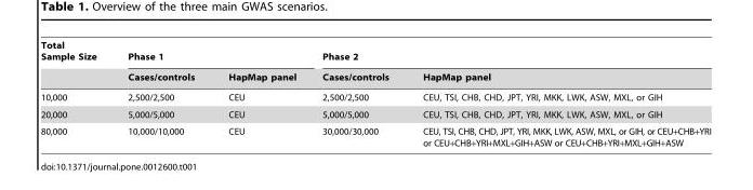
<table><thead><tr><td rowspan="2">Total Sample Size</td><td colspan="2">Phase 1</td><td colspan="2">Phase 2</td></tr><tr><td>Cases/controls</td><td>HapMap panel</td><td>Cases/controls</td><td>HapMap panel</td></tr></thead><tbody><tr><td>10,000</td><td>2,500/2,500</td><td>CEU</td><td>2,500/2,500</td><td>CEU, TSI, CHB, CHD, JPT, YRI, MKK, LWK, ASW, MXL, or GIH</td></tr><tr><td>20,000</td><td>5,000/5,000</td><td>CEU</td><td>5,000/5,000</td><td>CEU, TSI, CHB, CHD, JPT, YRI, MKK, LWK, ASW, MXL, or GIH</td></tr><tr><td>80,000</td><td>10,000/10,000</td><td>CEU</td><td>30,000/30,000</td><td>CEU, TSI, CHB, CHD, JPT, YRI, MKK, LWK, ASW, MXL, or GIH, or CEU+CHB+YRI or CEU+CHB+YRI+MXL+GIH+ASW or CEU+CHB+YRI+MXL+GIH+ASW</td></tr></tbody></table>